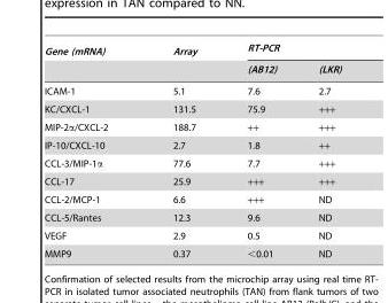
<table><thead><tr><td rowspan="2">Gene (mRNA)</td><td rowspan="2">Array</td><td colspan="2">RT-PCR</td></tr><tr><td>(AB12)</td><td>(LKR)</td></tr></thead><tbody><tr><td>ICAM-1</td><td>5.1</td><td>7.6</td><td>2.7</td></tr><tr><td>KC/CXCL-1</td><td>131.5</td><td>75.9</td><td>+++</td></tr><tr><td>MIP-2α/CXCL-2</td><td>188.7</td><td>++</td><td>+++</td></tr><tr><td>IP-10/CXCL-10</td><td>2.7</td><td>1.8</td><td>++</td></tr><tr><td>CCL-3/MIP-1α</td><td>77.6</td><td>7.7</td><td>+++</td></tr><tr><td>CCL-17</td><td>25.9</td><td>+++</td><td>+++</td></tr><tr><td>CCL-2/MCP-1</td><td>6.6</td><td>+++</td><td>ND</td></tr><tr><td>CCL-5/Rantes</td><td>12.3</td><td>9.6</td><td>ND</td></tr><tr><td>VEGF</td><td>2.9</td><td>0.5</td><td>ND</td></tr><tr><td>MMP9</td><td>0.37</td><td>&lt;0.01</td><td>ND</td></tr></tbody></table>